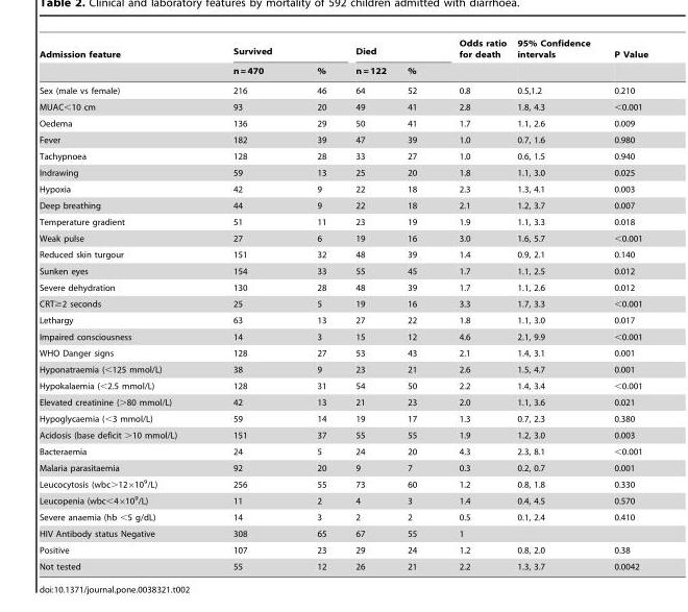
<table><thead><tr><td rowspan="2">Admission feature</td><td colspan="2">Survived</td><td colspan="2">Died</td><td rowspan="2">Odds ratio for death</td><td rowspan="2">95% Confidence intervals</td><td rowspan="2">P Value</td></tr><tr><td>n = 470</td><td>%</td><td>n = 122</td><td>%</td></tr></thead><tbody><tr><td>Sex (male vs female)</td><td>216</td><td>46</td><td>64</td><td>52</td><td>0.8</td><td>0.5,1.2</td><td>0.210</td></tr><tr><td>MUAC&lt;10 cm</td><td>93</td><td>20</td><td>49</td><td>41</td><td>2.8</td><td>1.8, 4.3</td><td>&lt;0.001</td></tr><tr><td>Oedema</td><td>136</td><td>29</td><td>50</td><td>41</td><td>1.7</td><td>1.1, 2.6</td><td>0.009</td></tr><tr><td>Fever</td><td>182</td><td>39</td><td>47</td><td>39</td><td>1.0</td><td>0.7, 1.6</td><td>0.980</td></tr><tr><td>Tachypnoea</td><td>128</td><td>28</td><td>33</td><td>27</td><td>1.0</td><td>0.6, 1.5</td><td>0.940</td></tr><tr><td>Indrawing</td><td>59</td><td>13</td><td>25</td><td>20</td><td>1.8</td><td>1.1, 3.0</td><td>0.025</td></tr><tr><td>Hypoxia</td><td>42</td><td>9</td><td>22</td><td>18</td><td>2.3</td><td>1.3, 4.1</td><td>0.003</td></tr><tr><td>Deep breathing</td><td>44</td><td>9</td><td>22</td><td>18</td><td>2.1</td><td>1.2, 3.7</td><td>0.007</td></tr><tr><td>Temperature gradient</td><td>51</td><td>11</td><td>23</td><td>19</td><td>1.9</td><td>1.1, 3.3</td><td>0.018</td></tr><tr><td>Weak pulse</td><td>27</td><td>6</td><td>19</td><td>16</td><td>3.0</td><td>1.6, 5.7</td><td>&lt;0.001</td></tr><tr><td>Reduced skin turgour</td><td>151</td><td>32</td><td>48</td><td>39</td><td>1.4</td><td>0.9, 2.1</td><td>0.140</td></tr><tr><td>Sunken eyes</td><td>154</td><td>33</td><td>55</td><td>45</td><td>1.7</td><td>1.1, 2.5</td><td>0.012</td></tr><tr><td>Severe dehydration</td><td>130</td><td>28</td><td>48</td><td>39</td><td>1.7</td><td>1.1, 2.6</td><td>0.012</td></tr><tr><td>CRT≥2 seconds</td><td>25</td><td>5</td><td>19</td><td>16</td><td>3.3</td><td>1.7, 3.3</td><td>&lt;0.001</td></tr><tr><td>Lethargy</td><td>63</td><td>13</td><td>27</td><td>22</td><td>1.8</td><td>1.1, 3.0</td><td>0.017</td></tr><tr><td>Impaired consciousness</td><td>14</td><td>3</td><td>15</td><td>12</td><td>4.6</td><td>2.1, 9.9</td><td>&lt;0.001</td></tr><tr><td>WHO Danger signs</td><td>128</td><td>27</td><td>53</td><td>43</td><td>2.1</td><td>1.4, 3.1</td><td>0.001</td></tr><tr><td>Hyponatraemia (&lt;125 mmol/L)</td><td>38</td><td>9</td><td>23</td><td>21</td><td>2.6</td><td>1.5, 4.7</td><td>0.001</td></tr><tr><td>Hypokalaemia (&lt;2.5 mmol/L)</td><td>128</td><td>31</td><td>54</td><td>50</td><td>2.2</td><td>1.4, 3.4</td><td>&lt;0.001</td></tr><tr><td>Elevated creatinine (&gt;80 mmol/L)</td><td>42</td><td>13</td><td>21</td><td>23</td><td>2.0</td><td>1.1, 3.6</td><td>0.021</td></tr><tr><td>Hypoglycaemia (&lt;3 mmol/L)</td><td>59</td><td>14</td><td>19</td><td>17</td><td>1.3</td><td>0.7, 2.3</td><td>0.380</td></tr><tr><td>Acidosis (base deficit &gt;10 mmol/L)</td><td>151</td><td>37</td><td>55</td><td>55</td><td>1.9</td><td>1.2, 3.0</td><td>0.003</td></tr><tr><td>Bacteraemia</td><td>24</td><td>5</td><td>24</td><td>20</td><td>4.3</td><td>2.3, 8.1</td><td>&lt;0.001</td></tr><tr><td>Malaria parasitaemia</td><td>92</td><td>20</td><td>9</td><td>7</td><td>0.3</td><td>0.2, 0.7</td><td>0.001</td></tr><tr><td>Leucocytosis (wbc&gt;12×10<sup>9</sup>/L)</td><td>256</td><td>55</td><td>73</td><td>60</td><td>1.2</td><td>0.8, 1.8</td><td>0.330</td></tr><tr><td>Leucopenia (wbc&lt;4×10<sup>9</sup>/L)</td><td>11</td><td>2</td><td>4</td><td>3</td><td>1.4</td><td>0.4, 4.5</td><td>0.570</td></tr><tr><td>Severe anaemia (hb &lt;5 g/dL)</td><td>14</td><td>3</td><td>2</td><td>2</td><td>0.5</td><td>0.1, 2.4</td><td>0.410</td></tr><tr><td>HIV Antibody status Negative</td><td>308</td><td>65</td><td>67</td><td>55</td><td colspan="3">1</td></tr><tr><td>Positive</td><td>107</td><td>23</td><td>29</td><td>24</td><td>1.2</td><td>0.8, 2.0</td><td>0.38</td></tr><tr><td>Not tested</td><td>55</td><td>12</td><td>26</td><td>21</td><td>2.2</td><td>1.3, 3.7</td><td>0.0042</td></tr></tbody></table>